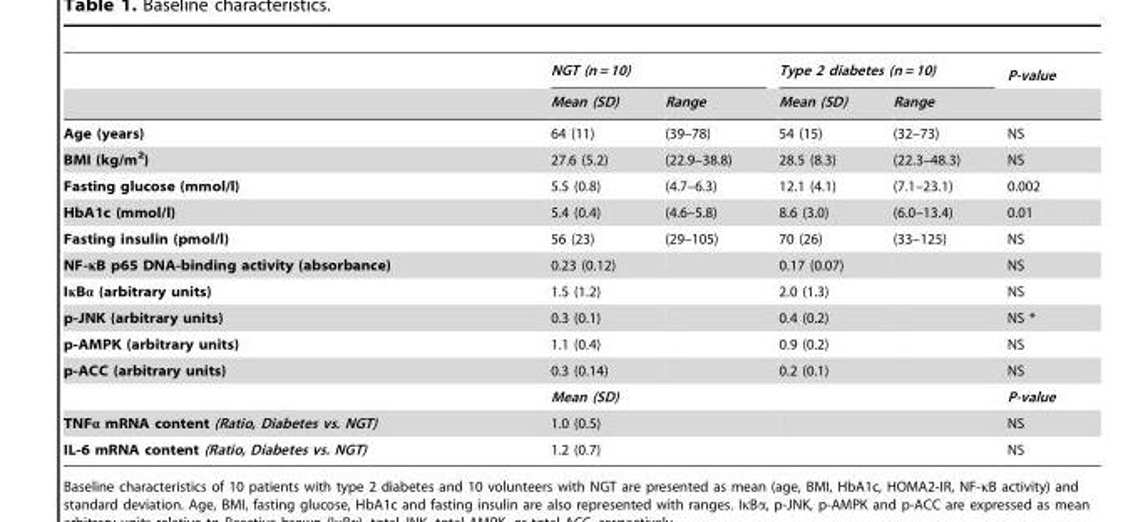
<table><thead><tr><td rowspan="2"></td><td colspan="2">NGT (n = 10)</td><td colspan="2">Type 2 diabetes (n = 10)</td><td rowspan="2">P-value</td></tr><tr><td>Mean (SD)</td><td>Range</td><td>Mean (SD)</td><td>Range</td></tr></thead><tbody><tr><td>Age (years)</td><td>64 (11)</td><td>(39–78)</td><td>54 (15)</td><td>(32–73)</td><td>NS</td></tr><tr><td>BMI (kg/m<sup>2</sup>)</td><td>27.6 (5.2)</td><td>(22.9–38.8)</td><td>28.5 (8.3)</td><td>(22.3–48.3)</td><td>NS</td></tr><tr><td>Fasting glucose (mmol/l)</td><td>5.5 (0.8)</td><td>(4.7–6.3)</td><td>12.1 (4.1)</td><td>(7.1–23.1)</td><td>0.002</td></tr><tr><td>HbA1c (mmol/l)</td><td>5.4 (0.4)</td><td>(4.6–5.8)</td><td>8.6 (3.0)</td><td>(6.0–13.4)</td><td>0.01</td></tr><tr><td>Fasting insulin (pmol/l)</td><td>56 (23)</td><td>(29–105)</td><td>70 (26)</td><td>(33–125)</td><td>NS</td></tr><tr><td>NF-κB p65 DNA-binding activity (absorbance)</td><td>0.23 (0.12)</td><td></td><td>0.17 (0.07)</td><td></td><td>NS</td></tr><tr><td>IκBα (arbitrary units)</td><td>1.5 (1.2)</td><td></td><td>2.0 (1.3)</td><td></td><td>NS</td></tr><tr><td>p-JNK (arbitrary units)</td><td>0.3 (0.1)</td><td></td><td>0.4 (0.2)</td><td></td><td>NS *</td></tr><tr><td>p-AMPK (arbitrary units)</td><td>1.1 (0.4)</td><td></td><td>0.9 (0.2)</td><td></td><td>NS</td></tr><tr><td rowspan="2">p-ACC (arbitrary units)</td><td>0.3 (0.14)</td><td></td><td>0.2 (0.1)</td><td></td><td>NS</td></tr><tr><td colspan="2">Mean (SD)</td><td colspan="2"></td><td>P-value</td></tr><tr><td>TNFα mRNA content (Ratio, Diabetes vs. NGT)</td><td colspan="2">1.0 (0.5)</td><td colspan="2"></td><td>NS</td></tr><tr><td>IL-6 mRNA content (Ratio, Diabetes vs. NGT)</td><td colspan="2">1.2 (0.7)</td><td colspan="2"></td><td>NS</td></tr></tbody></table>